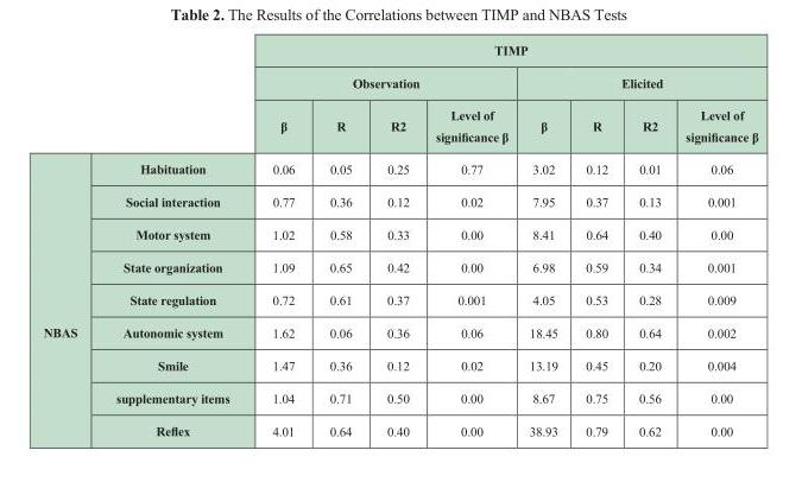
<table><thead><tr><td rowspan="3"></td><td rowspan="3"></td><td colspan="8">TIMP</td></tr><tr><td colspan="4">Observation</td><td colspan="4">Elicited</td></tr><tr><td>β</td><td>R</td><td>R2</td><td>Level of significance β</td><td>β</td><td>R</td><td>R2</td><td>Level of significance β</td></tr></thead><tbody><tr><td rowspan="9">NBAS</td><td>Habituation</td><td>0.06</td><td>0.05</td><td>0.25</td><td>0.77</td><td>3.02</td><td>0.12</td><td>0.01</td><td>0.06</td></tr><tr><td>Social interaction</td><td>0.77</td><td>0.36</td><td>0.12</td><td>0.02</td><td>7.95</td><td>0.37</td><td>0.13</td><td>0.001</td></tr><tr><td>Motor system</td><td>1.02</td><td>0.58</td><td>0.33</td><td>0.00</td><td>8.41</td><td>0.64</td><td>0.40</td><td>0.00</td></tr><tr><td>State organization</td><td>1.09</td><td>0.65</td><td>0.42</td><td>0.00</td><td>6.98</td><td>0.59</td><td>0.34</td><td>0.001</td></tr><tr><td>State regulation</td><td>0.72</td><td>0.61</td><td>0.37</td><td>0.001</td><td>4.05</td><td>0.53</td><td>0.28</td><td>0.009</td></tr><tr><td>Autonomic system</td><td>1.62</td><td>0.06</td><td>0.36</td><td>0.06</td><td>18.45</td><td>0.80</td><td>0.64</td><td>0.002</td></tr><tr><td>Smile</td><td>1.47</td><td>0.36</td><td>0.12</td><td>0.02</td><td>13.19</td><td>0.45</td><td>0.20</td><td>0.004</td></tr><tr><td>supplementary items</td><td>1.04</td><td>0.71</td><td>0.50</td><td>0.00</td><td>8.67</td><td>0.75</td><td>0.56</td><td>0.00</td></tr><tr><td>Reflex</td><td>4.01</td><td>0.64</td><td>0.40</td><td>0.00</td><td>38.93</td><td>0.79</td><td>0.62</td><td>0.00</td></tr></tbody></table>